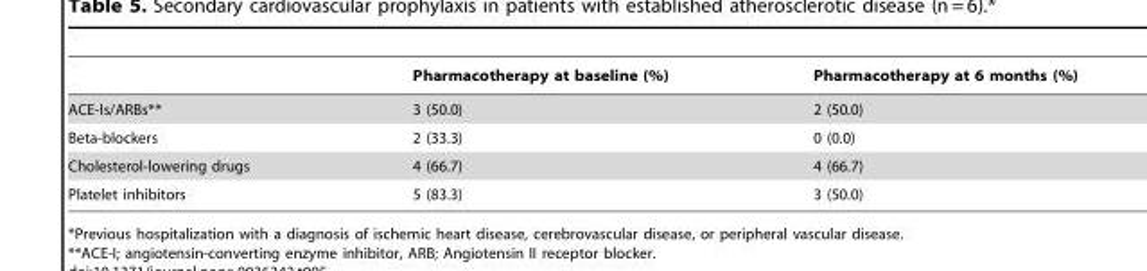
<table><thead><tr><td></td><td>Pharmacotherapy at baseline (%)</td><td>Pharmacotherapy at 6 months (%)</td></tr></thead><tbody><tr><td>ACE-Is/ARBs**</td><td>3 (50.0)</td><td>2 (50.0)</td></tr><tr><td>Beta-blockers</td><td>2 (33.3)</td><td>0 (0.0)</td></tr><tr><td>Cholesterol-lowering drugs</td><td>4 (66.7)</td><td>4 (66.7)</td></tr><tr><td>Platelet inhibitors</td><td>5 (83.3)</td><td>3 (50.0)</td></tr></tbody></table>